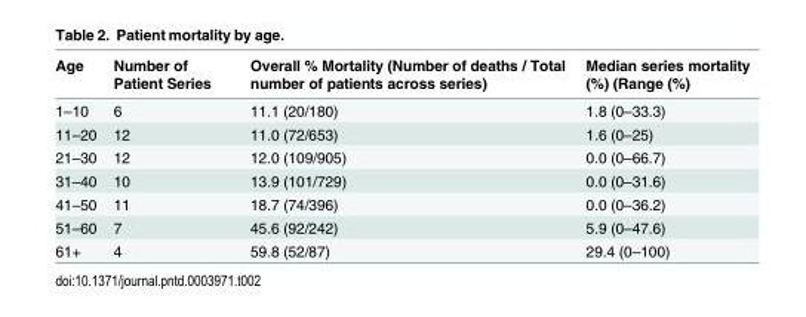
<table><thead><tr><td>Age</td><td>Number of Patient Series</td><td>Overall % Mortality (Number of deaths / Total number of patients across series)</td><td>Median series mortality (%) (Range (%)</td></tr></thead><tbody><tr><td>1–10</td><td>6</td><td>11.1 (20/180)</td><td>1.8 (0–33.3)</td></tr><tr><td>11–20</td><td>12</td><td>11.0 (72/653)</td><td>1.6 (0–25)</td></tr><tr><td>21–30</td><td>12</td><td>12.0 (109/905)</td><td>0.0 (0–66.7)</td></tr><tr><td>31–40</td><td>10</td><td>13.9 (101/729)</td><td>0.0 (0–31.6)</td></tr><tr><td>41–50</td><td>11</td><td>18.7 (74/396)</td><td>0.0 (0–36.2)</td></tr><tr><td>51–60</td><td>7</td><td>45.6 (92/242)</td><td>5.9 (0–47.6)</td></tr><tr><td>61+</td><td>4</td><td>59.8 (52/87)</td><td>29.4 (0–100)</td></tr></tbody></table>